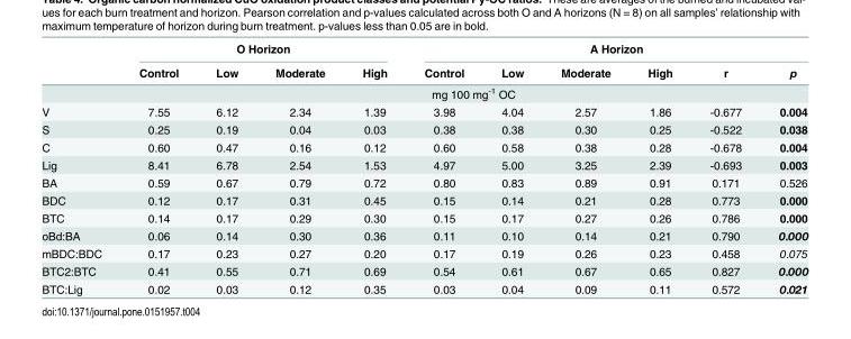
<table><thead><tr><td rowspan="2"></td><td colspan="4">O Horizon</td><td colspan="6">A Horizon</td></tr><tr><td>Control</td><td>Low</td><td>Moderate</td><td>High</td><td>Control</td><td>Low</td><td>Moderate</td><td>High</td><td>r</td><td>p</td></tr></thead><tbody><tr><td></td><td colspan="10">mg 100 mg<sup>-1</sup> OC</td></tr><tr><td>V</td><td>7.55</td><td>6.12</td><td>2.34</td><td>1.39</td><td>3.98</td><td>4.04</td><td>2.57</td><td>1.86</td><td>-0.677</td><td>0.004</td></tr><tr><td>S</td><td>0.25</td><td>0.19</td><td>0.04</td><td>0.03</td><td>0.38</td><td>0.38</td><td>0.30</td><td>0.25</td><td>-0.522</td><td>0.038</td></tr><tr><td>C</td><td>0.60</td><td>0.47</td><td>0.16</td><td>0.12</td><td>0.60</td><td>0.58</td><td>0.38</td><td>0.28</td><td>-0.678</td><td>0.004</td></tr><tr><td>Lig</td><td>8.41</td><td>6.78</td><td>2.54</td><td>1.53</td><td>4.97</td><td>5.00</td><td>3.25</td><td>2.39</td><td>-0.693</td><td>0.003</td></tr><tr><td>BA</td><td>0.59</td><td>0.67</td><td>0.79</td><td>0.72</td><td>0.80</td><td>0.83</td><td>0.89</td><td>0.91</td><td>0.171</td><td>0.526</td></tr><tr><td>BDC</td><td>0.12</td><td>0.17</td><td>0.31</td><td>0.45</td><td>0.15</td><td>0.14</td><td>0.21</td><td>0.28</td><td>0.773</td><td>0.000</td></tr><tr><td>BTC</td><td>0.14</td><td>0.17</td><td>0.29</td><td>0.30</td><td>0.15</td><td>0.17</td><td>0.27</td><td>0.26</td><td>0.786</td><td>0.000</td></tr><tr><td>oBd:BA</td><td>0.06</td><td>0.14</td><td>0.30</td><td>0.36</td><td>0.11</td><td>0.10</td><td>0.14</td><td>0.21</td><td>0.790</td><td>0.000</td></tr><tr><td>mBDC:BDC</td><td>0.17</td><td>0.23</td><td>0.27</td><td>0.20</td><td>0.17</td><td>0.19</td><td>0.26</td><td>0.23</td><td>0.458</td><td>0.075</td></tr><tr><td>BTC2:BTC</td><td>0.41</td><td>0.55</td><td>0.71</td><td>0.69</td><td>0.54</td><td>0.61</td><td>0.67</td><td>0.65</td><td>0.827</td><td>0.000</td></tr><tr><td>BTC:Lig</td><td>0.02</td><td>0.03</td><td>0.12</td><td>0.35</td><td>0.03</td><td>0.04</td><td>0.09</td><td>0.11</td><td>0.572</td><td>0.021</td></tr></tbody></table>